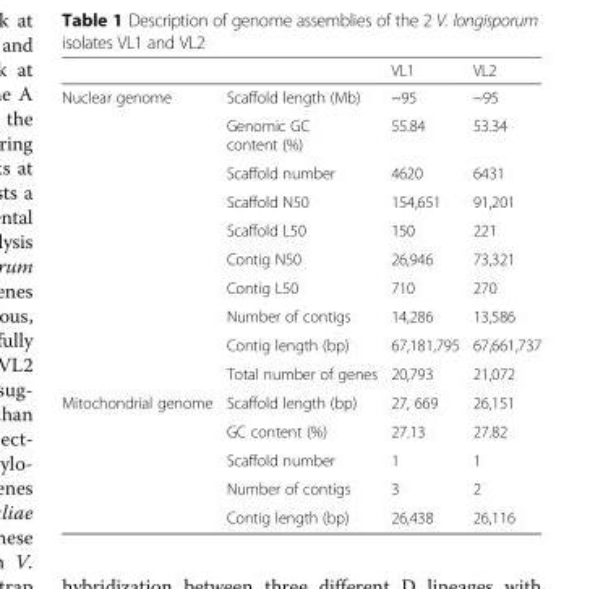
<table><thead><tr><td></td><td></td><td>VL1</td><td>VL2</td></tr></thead><tbody><tr><td rowspan="10">Nuclear genome</td><td>Scaffold length (Mb)</td><td>~95</td><td>~95</td></tr><tr><td>Genomic GC content (%)</td><td>55.84</td><td>53.34</td></tr><tr><td>Scaffold number</td><td>4620</td><td>6431</td></tr><tr><td>Scaffold N50</td><td>154,651</td><td>91,201</td></tr><tr><td>Scaffold L50</td><td>150</td><td>221</td></tr><tr><td>Contig N50</td><td>26,946</td><td>73,321</td></tr><tr><td>Contig L50</td><td>710</td><td>270</td></tr><tr><td>Number of contigs</td><td>14,286</td><td>13,586</td></tr><tr><td>Contig length (bp)</td><td>67,181,795</td><td>67,661,737</td></tr><tr><td>Total number of genes</td><td>20,793</td><td>21,072</td></tr><tr><td rowspan="5">Mitochondrial genome</td><td>Scaffold length (bp)</td><td>27, 669</td><td>26,151</td></tr><tr><td>GC content (%)</td><td>27.13</td><td>27.82</td></tr><tr><td>Scaffold number</td><td>1</td><td>1</td></tr><tr><td>Number of contigs</td><td>3</td><td>2</td></tr><tr><td>Contig length (bp)</td><td>26,438</td><td>26,116</td></tr></tbody></table>